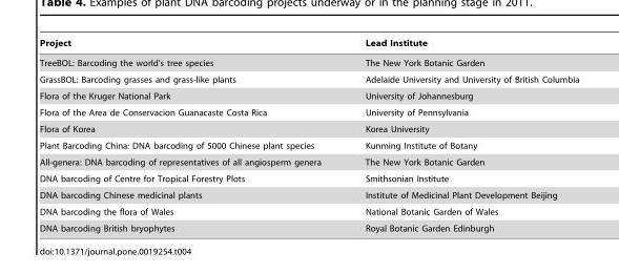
<table><thead><tr><td>Project</td><td>Lead Institute</td></tr></thead><tbody><tr><td>TreeBOL: Barcoding the world’s tree species</td><td>The New York Botanic Garden</td></tr><tr><td>GrassBOL: Barcoding grasses and grass-like plants</td><td>Adelaide University and University of British Columbia</td></tr><tr><td>Flora of the Kruger National Park</td><td>University of Johannesburg</td></tr><tr><td>Flora of the Area de Conservacion Guanacaste Costa Rica</td><td>University of Pennsylvania</td></tr><tr><td>Flora of Korea</td><td>Korea University</td></tr><tr><td>Plant Barcoding China: DNA barcoding of 5000 Chinese plant species</td><td>Kunming Institute of Botany</td></tr><tr><td>All-genera: DNA barcoding of representatives of all angiosperm genera</td><td>The New York Botanic Garden</td></tr><tr><td>DNA barcoding of Centre for Tropical Forestry Plots</td><td>Smithsonian Institute</td></tr><tr><td>DNA barcoding Chinese medicinal plants</td><td>Institute of Medicinal Plant Development Beijing</td></tr><tr><td>DNA barcoding the flora of Wales</td><td>National Botanic Garden of Wales</td></tr><tr><td>DNA barcoding British bryophytes</td><td>Royal Botanic Garden Edinburgh</td></tr></tbody></table>